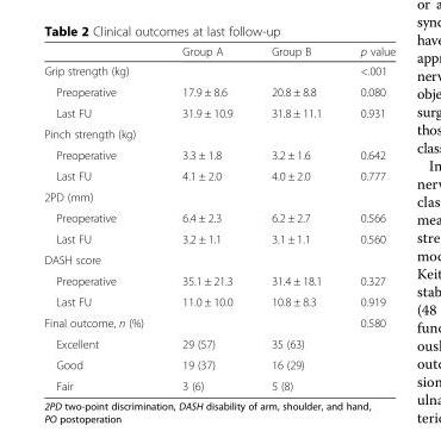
<table><thead><tr><td></td><td>Group A</td><td>Group B</td><td>p value</td></tr></thead><tbody><tr><td>Grip strength (kg)</td><td></td><td></td><td>&lt;.001</td></tr><tr><td>Preoperative</td><td>17.9 ± 8.6</td><td>20.8 ± 8.8</td><td>0.080</td></tr><tr><td>Last FU</td><td>31.9 ± 10.9</td><td>31.8 ± 11.1</td><td>0.931</td></tr><tr><td colspan="4">Pinch strength (kg)</td></tr><tr><td>Preoperative</td><td>3.3 ± 1.8</td><td>3.2 ± 1.6</td><td>0.642</td></tr><tr><td>Last FU</td><td>4.1 ± 2.0</td><td>4.0 ± 2.0</td><td>0.777</td></tr><tr><td colspan="4">2PD (mm)</td></tr><tr><td>Preoperative</td><td>6.4 ± 2.3</td><td>6.2 ± 2.7</td><td>0.566</td></tr><tr><td>Last FU</td><td>3.2 ± 1.1</td><td>3.1 ± 1.1</td><td>0.560</td></tr><tr><td colspan="4">DASH score</td></tr><tr><td>Preoperative</td><td>35.1 ± 21.3</td><td>31.4 ± 18.1</td><td>0.327</td></tr><tr><td>Last FU</td><td>11.0 ± 10.0</td><td>10.8 ± 8.3</td><td>0.919</td></tr><tr><td>Final outcome, n (%)</td><td></td><td></td><td>0.580</td></tr><tr><td>Excellent</td><td>29 (57)</td><td>35 (63)</td><td></td></tr><tr><td>Good</td><td>19 (37)</td><td>16 (29)</td><td></td></tr><tr><td>Fair</td><td>3 (6)</td><td>5 (8)</td><td></td></tr></tbody></table>